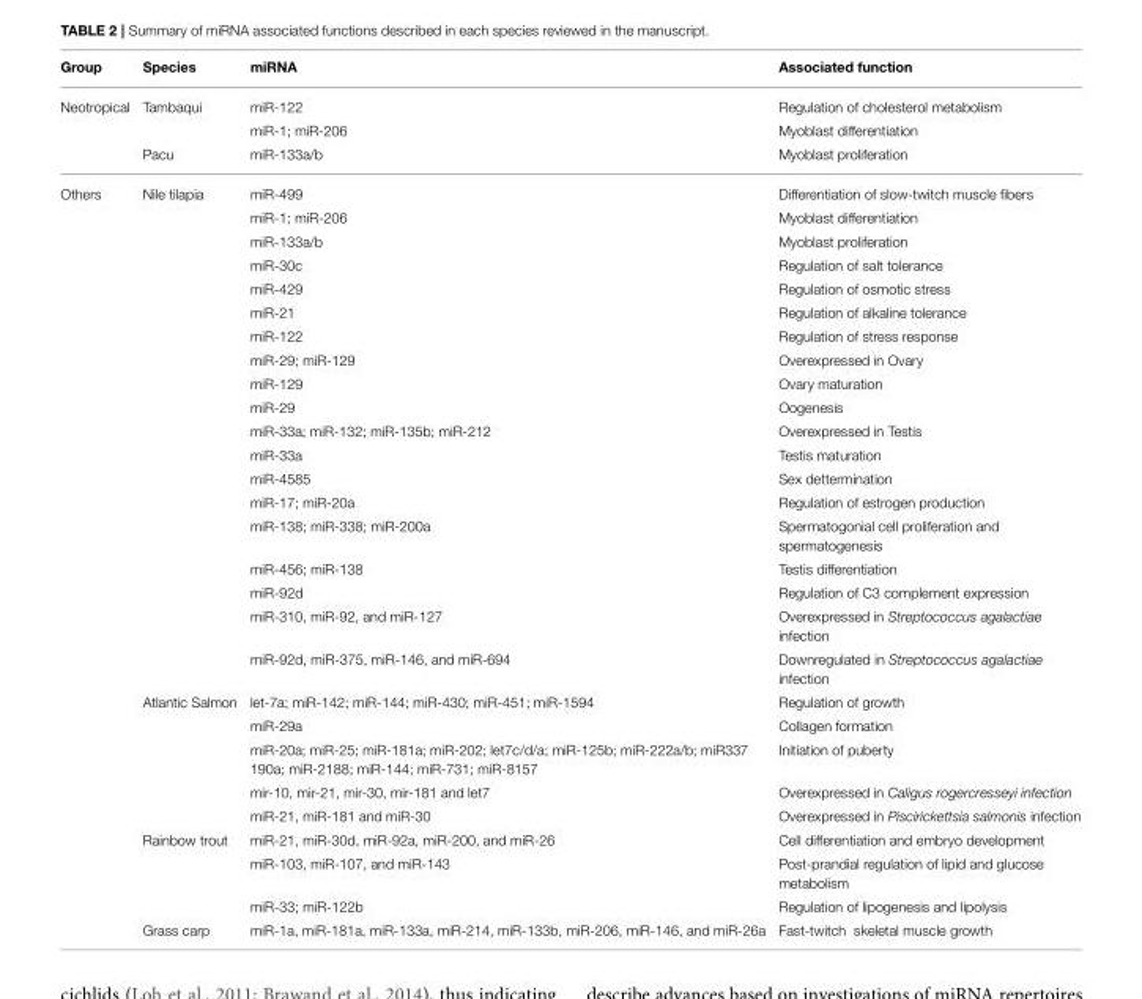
<table><thead><tr><td>Group</td><td>Species</td><td>miRNA</td><td>Associated function</td></tr></thead><tbody><tr><td rowspan="3">Neotropical</td><td>Tambaqui</td><td>miR-122</td><td>Regulation of cholesterol metabolism</td></tr><tr><td></td><td>miR-1; miR-206</td><td>Myoblast differentiation</td></tr><tr><td>Pacu</td><td>miR-133a/b</td><td>Myoblast proliferation</td></tr><tr><td rowspan="28">Others</td><td>Nile tilapia</td><td>miR-499</td><td>Differentiation of slow-twitch muscle fibers</td></tr><tr><td></td><td>miR-1; miR-206</td><td>Myoblast differentiation</td></tr><tr><td></td><td>miR-133a/b</td><td>Myoblast proliferation</td></tr><tr><td></td><td>miR-30c</td><td>Regulation of salt tolerance</td></tr><tr><td></td><td>miR-429</td><td>Regulation of osmotic stress</td></tr><tr><td></td><td>miR-21</td><td>Regulation of alkaline tolerance</td></tr><tr><td></td><td>miR-122</td><td>Regulation of stress response</td></tr><tr><td></td><td>miR-29; miR-129</td><td>Overexpressed in Ovary</td></tr><tr><td></td><td>miR-129</td><td>Ovary maturation</td></tr><tr><td></td><td>miR-29</td><td>Oogenesis</td></tr><tr><td></td><td>miR-33a; miR-132; miR-135b; miR-212</td><td>Overexpressed in Testis</td></tr><tr><td></td><td>miR-33a</td><td>Testis maturation</td></tr><tr><td></td><td>miR-4585</td><td>Sex dettermination</td></tr><tr><td></td><td>miR-17; miR-20a</td><td>Regulation of estrogen production</td></tr><tr><td></td><td>miR-138; miR-338; miR-200a</td><td>Spermatogonial cell proliferation and spermatogenesis</td></tr><tr><td></td><td>miR-456; miR-138</td><td>Testis differentiation</td></tr><tr><td></td><td>miR-92d</td><td>Regulation of C3 complement expression</td></tr><tr><td></td><td>miR-310, miR-92, and miR-127</td><td>Overexpressed in Streptococcus agalactiae infection</td></tr><tr><td></td><td>miR-92d, miR-375, miR-146, and miR-694</td><td>Downregulated in Streptococcus agalactiae infection</td></tr><tr><td>Atlantic Salmon</td><td>let-7a; miR-142; miR-144; miR-430; miR-451; miR-1594</td><td>Regulation of growth</td></tr><tr><td></td><td>miR-29a</td><td>Collagen formation</td></tr><tr><td></td><td>miR-20a; miR-25; miR-181a; miR-202; let7c/d/a; miR-125b; miR-222a/b; miR337 190a; miR-2188; miR-144; miR-731; miR-8157</td><td>Initiation of puberty</td></tr><tr><td></td><td>mir-10, mir-21, mir-30, mir-181 and let7</td><td>Overexpressed in Caligus rogercresseyi infection</td></tr><tr><td></td><td>miR-21, miR-181 and miR-30</td><td>Overexpressed in Piscirickettsia salmonis infection</td></tr><tr><td>Rainbow trout</td><td>miR-21, miR-30d, miR-92a, miR-200, and miR-26</td><td>Cell differentiation and embryo development</td></tr><tr><td></td><td>miR-103, miR-107, and miR-143</td><td>Post-prandial regulation of lipid and glucose metabolism</td></tr><tr><td></td><td>miR-33; miR-122b</td><td>Regulation of lipogenesis and lipolysis</td></tr><tr><td>Grass carp</td><td>miR-1a, miR-181a, miR-133a, miR-214, miR-133b, miR-206, miR-146, and miR-26a</td><td>Fast-twitch skeletal muscle growth</td></tr></tbody></table>